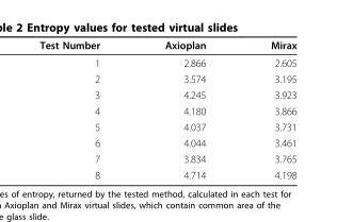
<table><thead><tr><td>Test Number</td><td>Axioplan</td><td>Mirax</td></tr></thead><tbody><tr><td>1</td><td>2.866</td><td>2.605</td></tr><tr><td>2</td><td>3.574</td><td>3.195</td></tr><tr><td>3</td><td>4.245</td><td>3.923</td></tr><tr><td>4</td><td>4.180</td><td>3.866</td></tr><tr><td>5</td><td>4.037</td><td>3.731</td></tr><tr><td>6</td><td>4.044</td><td>3.461</td></tr><tr><td>7</td><td>3.834</td><td>3.765</td></tr><tr><td>8</td><td>4.714</td><td>4.198</td></tr></tbody></table>